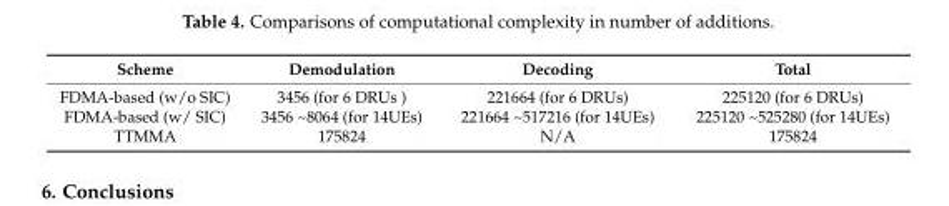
<table><thead><tr><td>Scheme</td><td>Demodulation</td><td>Decoding</td><td>Total</td></tr></thead><tbody><tr><td>FDMA-based (w/o SIC)</td><td>3456 (for 6 DRUs )</td><td>221664 (for 6 DRUs)</td><td>225120 (for 6 DRUs)</td></tr><tr><td>FDMA-based (w/ SIC)</td><td>3456 ~8064 (for 14UEs)</td><td>221664 ~517216 (for 14UEs)</td><td>225120 ~525280 (for 14UEs)</td></tr><tr><td>TTMMA</td><td>175824</td><td>N/A</td><td>175824</td></tr></tbody></table>